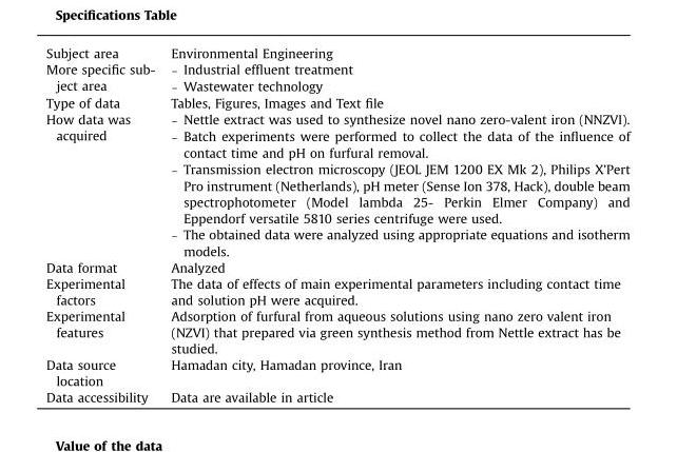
<table><tbody><tr><td>Subject area</td><td>Environmental Engineering</td></tr><tr><td>More specific sub- ject area</td><td>– Industrial effluent treatment – Wastewater technology</td></tr><tr><td>Type of data</td><td>Tables, Figures, Images and Text file</td></tr><tr><td>How data was acquired</td><td>– Nettle extract was used to synthesize novel nano zero-valent iron (NNZVI). – Batch experiments were performed to collect the data of the influence of contact time and pH on furfural removal. – Transmission electron microscopy (JEOL JEM 1200 EX Mk 2), Philips X’Pert Pro instrument (Netherlands), pH meter (Sense Ion 378, Hack), double beam spectrophotometer (Model lambda 25- Perkin Elmer Company) and Eppendorf versatile 5810 series centrifuge were used. – The obtained data were analyzed using appropriate equations and isotherm models.</td></tr><tr><td>Data format</td><td>Analyzed</td></tr><tr><td>Experimental factors</td><td>The data of effects of main experimental parameters including contact time and solution pH were acquired.</td></tr><tr><td>Experimental features</td><td>Adsorption of furfural from aqueous solutions using nano zero valent iron (NZVI) that prepared via green synthesis method from Nettle extract has be studied.</td></tr><tr><td>Data source location</td><td>Hamadan city, Hamadan province, Iran</td></tr><tr><td>Data accessibility</td><td>Data are available in article</td></tr></tbody></table>